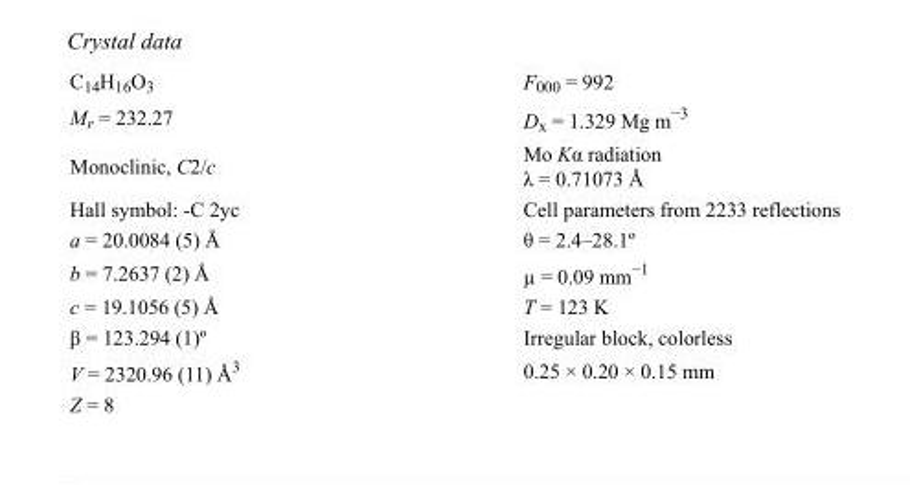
<table><tbody><tr><td>C<sub>14</sub>H<sub>16</sub>O<sub>3</sub></td><td>F000 = 992</td></tr><tr><td>M<sub>r</sub> = 232.27</td><td>D<sub>x</sub> = 1.329 Mg m<sup>−3</sup></td></tr><tr><td>Monoclinic, C2/c</td><td>Mo Kα radiation λ = 0.71073 Å</td></tr><tr><td>Hall symbol: -C 2yc</td><td>Cell parameters from 2233 reflections</td></tr><tr><td>a = 20.0084 (5) Å</td><td>θ = 2.4–28.1º</td></tr><tr><td>b = 7.2637 (2) Å</td><td>µ = 0.09 mm<sup>−1</sup></td></tr><tr><td>c = 19.1056 (5) Å</td><td>T = 123 K</td></tr><tr><td>β = 123.294 (1)º</td><td>Irregular block, colorless</td></tr><tr><td>V = 2320.96 (11) Å<sup>3</sup></td><td>0.25 × 0.20 × 0.15 mm</td></tr><tr><td>Z = 8</td><td></td></tr></tbody></table>